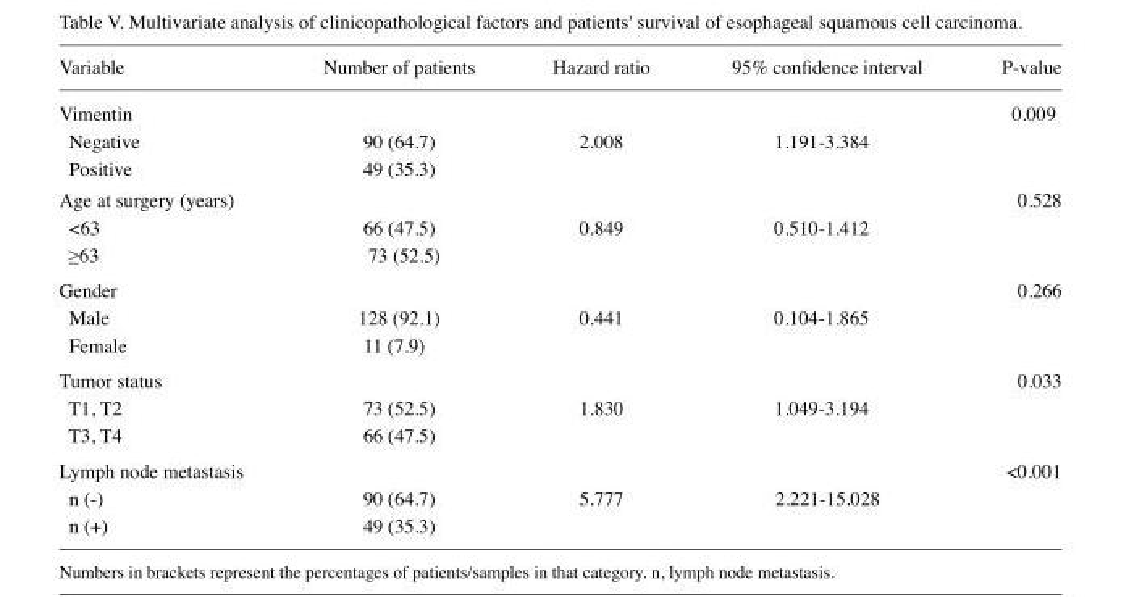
<table><thead><tr><td>Variable</td><td>Number of patients</td><td>Hazard ratio</td><td>95% confidence interval</td><td>P‑value</td></tr></thead><tbody><tr><td>Vimentin</td><td></td><td></td><td></td><td>0.009</td></tr><tr><td>Negative</td><td>90 (64.7)</td><td>2.008</td><td>1.191‑3.384</td><td></td></tr><tr><td>Positive</td><td>49 (35.3)</td><td></td><td></td><td></td></tr><tr><td>Age at surgery (years)</td><td></td><td></td><td></td><td>0.528</td></tr><tr><td>&lt;63</td><td>66 (47.5)</td><td>0.849</td><td>0.510‑1.412</td><td></td></tr><tr><td>≥63</td><td>73 (52.5)</td><td></td><td></td><td></td></tr><tr><td>Gender</td><td></td><td></td><td></td><td>0.266</td></tr><tr><td>Male</td><td>128 (92.1)</td><td>0.441</td><td>0.104‑1.865</td><td></td></tr><tr><td>Female</td><td>11 (7.9)</td><td></td><td></td><td></td></tr><tr><td>Tumor status</td><td></td><td></td><td></td><td>0.033</td></tr><tr><td>T1, T2</td><td>73 (52.5)</td><td>1.830</td><td>1.049‑3.194</td><td></td></tr><tr><td>T3, T4</td><td>66 (47.5)</td><td></td><td></td><td></td></tr><tr><td>Lymph node metastasis</td><td></td><td></td><td></td><td>&lt;0.001</td></tr><tr><td>n (‑)</td><td>90 (64.7)</td><td>5.777</td><td>2.221‑15.028</td><td></td></tr><tr><td>n (+)</td><td>49 (35.3)</td><td></td><td></td><td></td></tr></tbody></table>